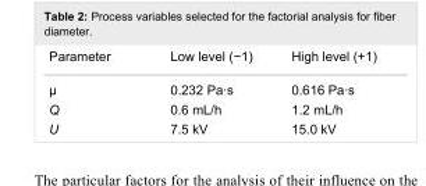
<table><tbody><tr><td>Parameter</td><td>Low level (−1)</td><td>High level (+1)</td></tr><tr><td>µ</td><td>0.232 Pa·s</td><td>0.616 Pa·s</td></tr><tr><td>Q</td><td>0.6 mL/h</td><td>1.2 mL/h</td></tr><tr><td>U</td><td>7.5 kV</td><td>15.0 kV</td></tr></tbody></table>